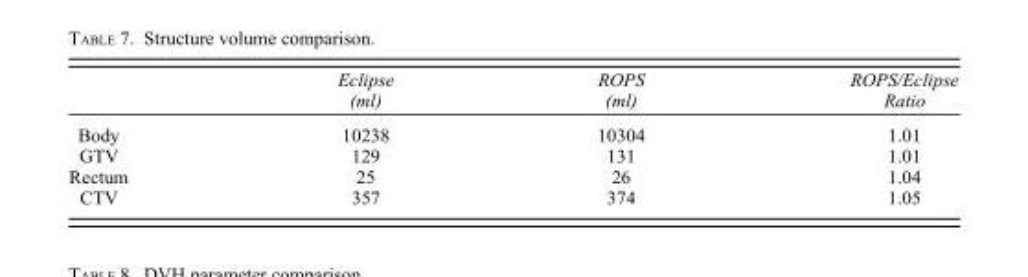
<table><thead><tr><td></td><td>Eclipse (ml)</td><td>ROPS (ml)</td><td>ROPS/Eclipse Ratio</td></tr></thead><tbody><tr><td>Body</td><td>10238</td><td>10304</td><td>1.01</td></tr><tr><td>GTV</td><td>129</td><td>131</td><td>1.01</td></tr><tr><td>Rectum</td><td>25</td><td>26</td><td>1.04</td></tr><tr><td>CTV</td><td>357</td><td>374</td><td>1.05</td></tr></tbody></table>